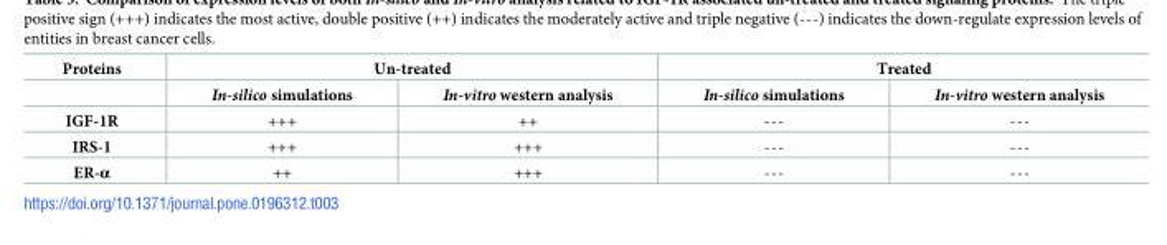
<table><thead><tr><td rowspan="2">Proteins</td><td colspan="2">Un-treated</td><td colspan="2">Treated</td></tr><tr><td>In-silico simulations</td><td>In-vitro western analysis</td><td>In-silico simulations</td><td>In-vitro western analysis</td></tr></thead><tbody><tr><td>IGF-1R</td><td>+++</td><td>++</td><td>---</td><td>---</td></tr><tr><td>IRS-1</td><td>+++</td><td>+++</td><td>---</td><td>---</td></tr><tr><td>ER-α</td><td>++</td><td>+++</td><td>---</td><td>---</td></tr></tbody></table>